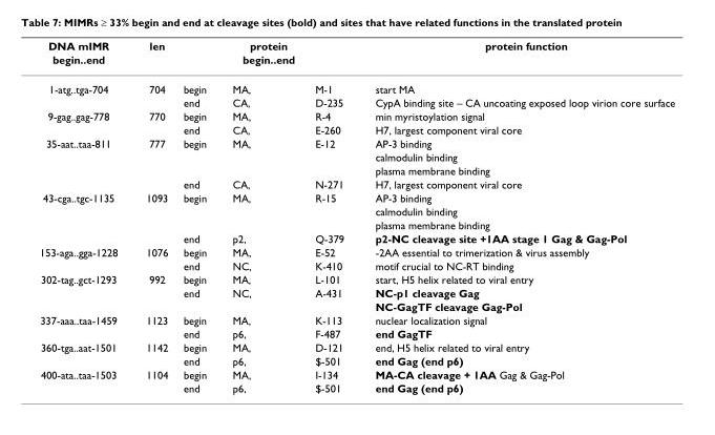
<table><thead><tr><td rowspan="2">DNA mIMR begin..end</td><td rowspan="2">len</td><td rowspan="2"></td><td rowspan="2">protein begin..end</td><td rowspan="2"></td><td rowspan="2">protein function</td></tr><tr></tr></thead><tbody><tr><td rowspan="2">1-atg..tga-704</td><td>704</td><td>begin</td><td>MA,</td><td>M-1</td><td>start MA</td></tr><tr><td></td><td>end</td><td>CA,</td><td>D-235</td><td>CypA binding site – CA uncoating exposed loop virion core surface</td></tr><tr><td rowspan="2">9-gag..gag-778</td><td>770</td><td>begin</td><td>MA,</td><td>R-4</td><td>min myristoylation signal</td></tr><tr><td></td><td>end</td><td>CA,</td><td>E-260</td><td>H7, largest component viral core</td></tr><tr><td rowspan="4">35-aat..taa-811</td><td>777</td><td>begin</td><td>MA,</td><td>E-12</td><td>AP-3 binding</td></tr><tr><td></td><td></td><td></td><td></td><td>calmodulin binding</td></tr><tr><td></td><td></td><td></td><td></td><td>plasma membrane binding</td></tr><tr><td></td><td>end</td><td>CA,</td><td>N-271</td><td>H7, largest component viral core</td></tr><tr><td rowspan="4">43-cga..tgc-1135</td><td>1093</td><td>begin</td><td>MA,</td><td>R-15</td><td>AP-3 binding</td></tr><tr><td></td><td></td><td></td><td></td><td>calmodulin binding</td></tr><tr><td></td><td></td><td></td><td></td><td>plasma membrane binding</td></tr><tr><td></td><td>end</td><td>p2,</td><td>Q-379</td><td>p2-NC cleavage site +1AA stage 1 Gag &amp; Gag-Pol</td></tr><tr><td rowspan="2">153-aga..gga-1228</td><td>1076</td><td>begin</td><td>MA,</td><td>E-52</td><td>-2AA essential to trimerization &amp; virus assembly</td></tr><tr><td></td><td>end</td><td>NC,</td><td>K-410</td><td>motif crucial to NC-RT binding</td></tr><tr><td rowspan="3">302-tag..gct-1293</td><td>992</td><td>begin</td><td>MA,</td><td>L-101</td><td>start, H5 helix related to viral entry</td></tr><tr><td></td><td>end</td><td>NC,</td><td>A-431</td><td>NC-p1 cleavage Gag</td></tr><tr><td></td><td></td><td></td><td></td><td>NC-GagTF cleavage Gag-Pol</td></tr><tr><td rowspan="2">337-aaa..taa-1459</td><td>1123</td><td>begin</td><td>MA,</td><td>K-113</td><td>nuclear localization signal</td></tr><tr><td></td><td>end</td><td>p6,</td><td>F-487</td><td>end GagTF</td></tr><tr><td rowspan="2">360-tga..aat-1501</td><td>1142</td><td>begin</td><td>MA,</td><td>D-121</td><td>end, H5 helix related to viral entry</td></tr><tr><td></td><td>end</td><td>p6,</td><td>$-501</td><td>end Gag (end p6)</td></tr><tr><td rowspan="2">400-ata..taa-1503</td><td>1104</td><td>begin</td><td>MA,</td><td>I-134</td><td>MA-CA cleavage + 1AA Gag &amp; Gag-Pol</td></tr><tr><td></td><td>end</td><td>p6,</td><td>$-501</td><td>end Gag (end p6)</td></tr></tbody></table>